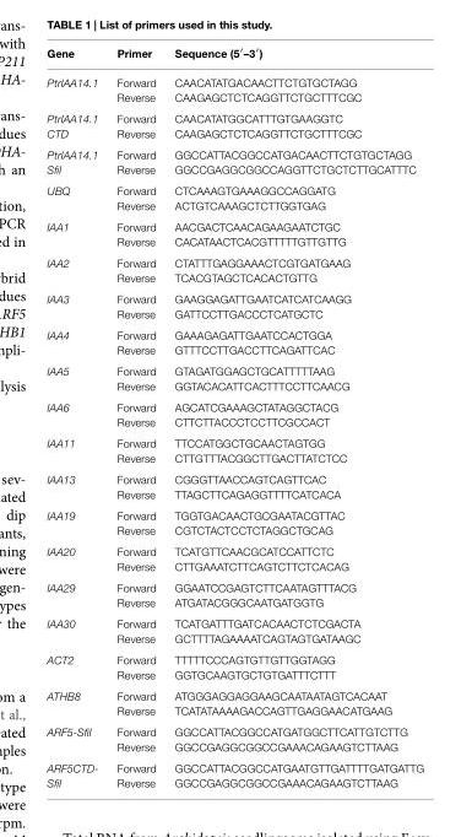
<table><thead><tr><td>Gene</td><td>Primer</td><td>Sequence (5′–3′)</td></tr></thead><tbody><tr><td>PtrIAA14.1</td><td>Forward Reverse</td><td>CAACATATGACAACTTCTGTGCTAGG CAAGAGCTCTCAGGTTCTGCTTTCGC</td></tr><tr><td>PtrIAA14.1 CTD</td><td>Forward Reverse</td><td>CAACATATGGCATTTGTGAAGGTC CAAGAGCTCTCAGGTTCTGCTTTCGC</td></tr><tr><td>PtrIAA14.1 SfiI</td><td>Forward Reverse</td><td>GGCCATTACGGCCATGACAACTTCTGTGCTAGG GGCCGAGGCGGCCAGGTTCTGCTCTTGCATTTC</td></tr><tr><td>UBQ</td><td>Forward Reverse</td><td>CTCAAAGTGAAAGGCCAGGATG ACTGTCAAAGCTCTTGGTGAG</td></tr><tr><td>IAA1</td><td>Forward Reverse</td><td>AACGACTCAACAGAAGAATCTGC CACATAACTCACGTTTTTGTTGTTG</td></tr><tr><td>IAA2</td><td>Forward Reverse</td><td>CTATTTGAGGAAACTCGTGATGAAG TCACGTAGCTCACACTGTTG</td></tr><tr><td>IAA3</td><td>Forward Reverse</td><td>GAAGGAGATTGAATCATCATCAAGG GATTCCTTGACCCTCATGCTC</td></tr><tr><td>IAA4</td><td>Forward Reverse</td><td>GAAAGAGATTGAATCCACTGGA GTTTCCTTGACCTTCAGATTCAC</td></tr><tr><td>IAA5</td><td>Forward Reverse</td><td>GTAGATGGAGCTGCATTTTTAAG GGTACACATTCACTTTCCTTCAACG</td></tr><tr><td>IAA6</td><td>Forward Reverse</td><td>AGCATCGAAAGCTATAGGCTACG CTTCTTACCCTCCTTCGCCACT</td></tr><tr><td>IAA11</td><td>Forward Reverse</td><td>TTCCATGGCTGCAACTAGTGG CTTGTTTACGGCTTGACTTATCTCC</td></tr><tr><td>IAA13</td><td>Forward Reverse</td><td>CGGGTTAACCAGTCAGTTCAC TTAGCTTCAGAGGTTTTCATCACA</td></tr><tr><td>IAA19</td><td>Forward Reverse</td><td>TGGTGACAACTGCGAATACGTTAC CGTCTACTCCTCTAGGCTGCAG</td></tr><tr><td>IAA20</td><td>Forward Reverse</td><td>TCATGTTCAACGCATCCATTCTC CTTGAAATCTTCAGTCTTCTCACAG</td></tr><tr><td>IAA29</td><td>Forward Reverse</td><td>GGAATCCGAGTCTTCAATAGTTTACG ATGATACGGGCAATGATGGTG</td></tr><tr><td>IAA30</td><td>Forward Reverse</td><td>TCATGATTTGATCACAACTCTCGACTA GCTTTTAGAAAATCAGTAGTGATAAGC</td></tr><tr><td>ACT2</td><td>Forward Reverse</td><td>TTTTTCCCAGTGTTGTTGGTAGG GGTGCAAGTGCTGTGATTTCTTT</td></tr><tr><td>ATHB8</td><td>Forward Reverse</td><td>ATGGGAGGAGGAAGCAATAATAGTCACAAT TCATATAAAAGACCAGTTGAGGAACATGAAG</td></tr><tr><td>ARF5-SfiI</td><td>Forward Reverse</td><td>GGCCATTACGGCCATGATGGCTTCATTGTCTTG GGCCGAGGCGGCCGAAACAGAAGTCTTAAG</td></tr><tr><td>ARF5CTD- SfiI</td><td>Forward Reverse</td><td>GGCCATTACGGCCATGAATGTTGATTTTGATGATTG GGCCGAGGCGGCCGAAACAGAAGTCTTAAG</td></tr></tbody></table>